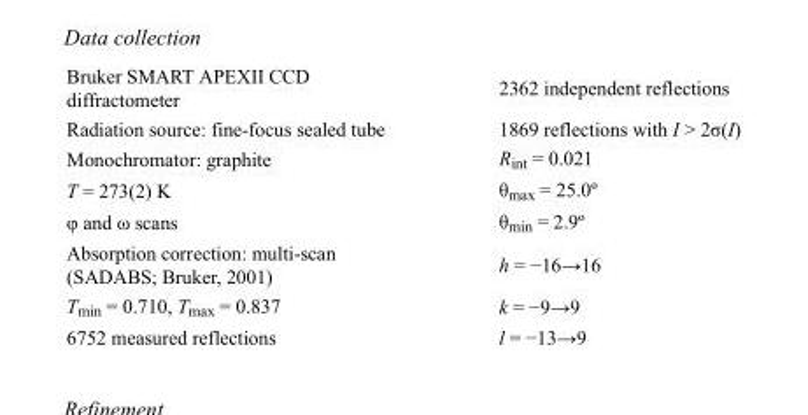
<table><tbody><tr><td>Bruker SMART APEXII CCD diffractometer</td><td>2362 independent reflections</td></tr><tr><td>Radiation source: fine-focus sealed tube</td><td>1869 reflections with I &gt; 2σ(I)</td></tr><tr><td>Monochromator: graphite</td><td>R<sub>int</sub> = 0.021</td></tr><tr><td>T = 273(2) K</td><td>θ<sub>max</sub> = 25.0º</td></tr><tr><td>φ and ω scans</td><td>θ<sub>min</sub> = 2.9º</td></tr><tr><td>Absorption correction: multi-scan (SADABS; Bruker, 2001)</td><td>h = −16→16</td></tr><tr><td>T<sub>min</sub> = 0.710, T<sub>max</sub> = 0.837</td><td>k = −9→9</td></tr><tr><td>6752 measured reflections</td><td>l = −13→9</td></tr></tbody></table>